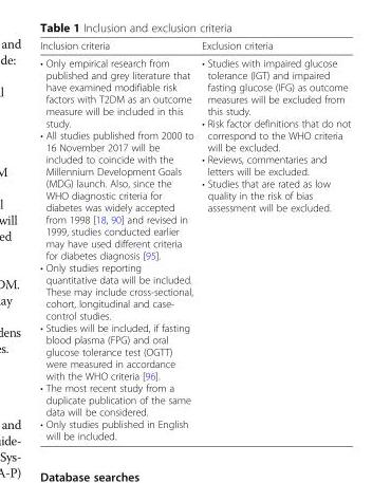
<table><thead><tr><td>Inclusion criteria</td><td>Exclusion criteria</td></tr></thead><tbody><tr><td>• Only empirical research from published and grey literature that have examined modifiable risk factors with T2DM as an outcome measure will be included in this study. • All studies published from 2000 to 16 November 2017 will be included to coincide with the Millennium Development Goals (MDG) launch. Also, since the WHO diagnostic criteria for diabetes was widely accepted from 1998 [18, 90] and revised in 1999, studies conducted earlier may have used different criteria for diabetes diagnosis [95]. • Only studies reporting quantitative data will be included. These may include cross-sectional, cohort, longitudinal and case- control studies. • Studies will be included, if fasting blood plasma (FPG) and oral glucose tolerance test (OGTT) were measured in accordance with the WHO criteria [96]. • The most recent study from a duplicate publication of the same data will be considered. • Only studies published in English will be included.</td><td>• Studies with impaired glucose tolerance (IGT) and impaired fasting glucose (IFG) as outcome measures will be excluded from this study. • Risk factor definitions that do not correspond to the WHO criteria will be excluded. • Reviews, commentaries and letters will be excluded. • Studies that are rated as low quality in the risk of bias assessment will be excluded.</td></tr></tbody></table>